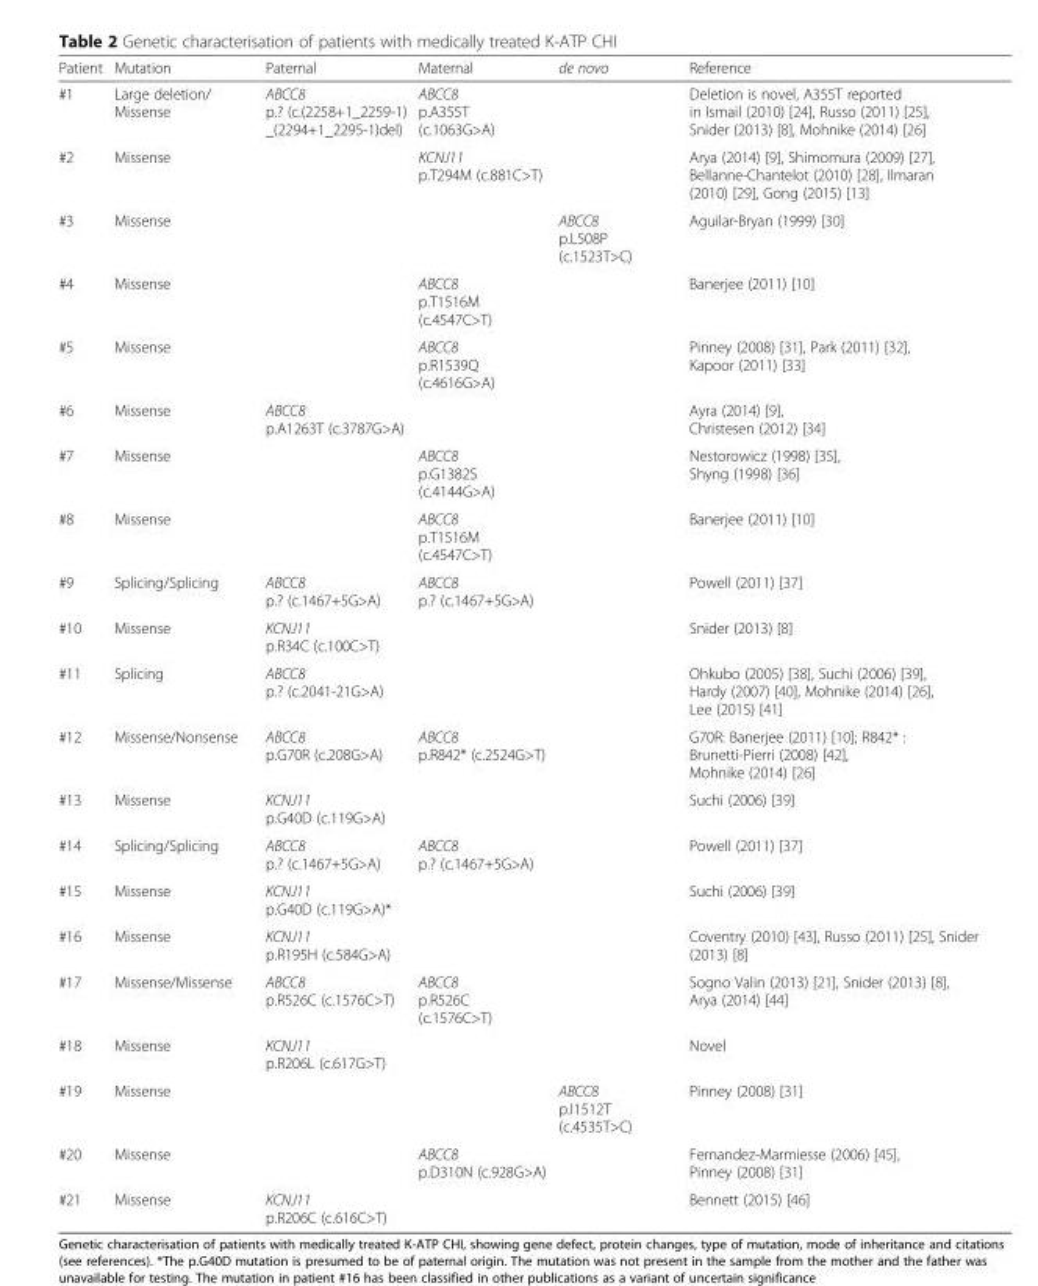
<table><thead><tr><td>Patient</td><td>Mutation</td><td>Paternal</td><td>Maternal</td><td>de novo</td><td>Reference</td></tr></thead><tbody><tr><td>#1</td><td>Large deletion/ Missense</td><td>ABCC8 p.? (c.(2258+1_2259-1) _(2294+1_2295-1)del)</td><td>ABCC8 p.A355T (c.1063G&gt;A)</td><td></td><td>Deletion is novel, A355T reported in Ismail (2010) [24], Russo (2011) [25], Snider (2013) [8], Mohnike (2014) [26]</td></tr><tr><td>#2</td><td>Missense</td><td></td><td>KCNJ11 p.T294M (c.881C&gt;T)</td><td></td><td>Arya (2014) [9], Shimomura (2009) [27], Bellanne-Chantelot (2010) [28], Ilmaran (2010) [29], Gong (2015) [13]</td></tr><tr><td>#3</td><td>Missense</td><td></td><td></td><td>ABCC8 p.L508P (c.1523T&gt;C)</td><td>Aguilar-Bryan (1999) [30]</td></tr><tr><td>#4</td><td>Missense</td><td></td><td>ABCC8 p.T1516M (c.4547C&gt;T)</td><td></td><td>Banerjee (2011) [10]</td></tr><tr><td>#5</td><td>Missense</td><td></td><td>ABCC8 p.R1539Q (c.4616G&gt;A)</td><td></td><td>Pinney (2008) [31], Park (2011) [32], Kapoor (2011) [33]</td></tr><tr><td>#6</td><td>Missense</td><td>ABCC8 p.A1263T (c.3787G&gt;A)</td><td></td><td></td><td>Ayra (2014) [9], Christesen (2012) [34]</td></tr><tr><td>#7</td><td>Missense</td><td></td><td>ABCC8 p.G1382S (c.4144G&gt;A)</td><td></td><td>Nestorowicz (1998) [35], Shyng (1998) [36]</td></tr><tr><td>#8</td><td>Missense</td><td></td><td>ABCC8 p.T1516M (c.4547C&gt;T)</td><td></td><td>Banerjee (2011) [10]</td></tr><tr><td>#9</td><td>Splicing/Splicing</td><td>ABCC8 p.? (c.1467+5G&gt;A)</td><td>ABCC8 p.? (c.1467+5G&gt;A)</td><td></td><td>Powell (2011) [37]</td></tr><tr><td>#10</td><td>Missense</td><td>KCNJ11 p.R34C (c.100C&gt;T)</td><td></td><td></td><td>Snider (2013) [8]</td></tr><tr><td>#11</td><td>Splicing</td><td>ABCC8 p.? (c.2041-21G&gt;A)</td><td></td><td></td><td>Ohkubo (2005) [38], Suchi (2006) [39], Hardy (2007) [40], Mohnike (2014) [26], Lee (2015) [41]</td></tr><tr><td>#12</td><td>Missense/Nonsense</td><td>ABCC8 p.G70R (c.208G&gt;A)</td><td>ABCC8 p.R842* (c.2524G&gt;T)</td><td></td><td>G70R: Banerjee (2011) [10]; R842* : Brunetti-Pierri (2008) [42], Mohnike (2014) [26]</td></tr><tr><td>#13</td><td>Missense</td><td>KCNJ11 p.G40D (c.119G&gt;A)</td><td></td><td></td><td>Suchi (2006) [39]</td></tr><tr><td>#14</td><td>Splicing/Splicing</td><td>ABCC8 p.? (c.1467+5G&gt;A)</td><td>ABCC8 p.? (c.1467+5G&gt;A)</td><td></td><td>Powell (2011) [37]</td></tr><tr><td>#15</td><td>Missense</td><td>KCNJ11 p.G40D (c.119G&gt;A)*</td><td></td><td></td><td>Suchi (2006) [39]</td></tr><tr><td>#16</td><td>Missense</td><td>KCNJ11 p.R195H (c.584G&gt;A)</td><td></td><td></td><td>Coventry (2010) [43], Russo (2011) [25], Snider (2013) [8]</td></tr><tr><td>#17</td><td>Missense/Missense</td><td>ABCC8 p.R526C (c.1576C&gt;T)</td><td>ABCC8 p.R526C (c.1576C&gt;T)</td><td></td><td>Sogno Valin (2013) [21], Snider (2013) [8], Arya (2014) [44]</td></tr><tr><td>#18</td><td>Missense</td><td>KCNJ11 p.R206L (c.617G&gt;T)</td><td></td><td></td><td>Novel</td></tr><tr><td>#19</td><td>Missense</td><td></td><td></td><td>ABCC8 p.I1512T (c.4535T&gt;C)</td><td>Pinney (2008) [31]</td></tr><tr><td>#20</td><td>Missense</td><td></td><td>ABCC8 p.D310N (c.928G&gt;A)</td><td></td><td>Fernandez-Marmiesse (2006) [45], Pinney (2008) [31]</td></tr><tr><td>#21</td><td>Missense</td><td>KCNJ11 p.R206C (c.616C&gt;T)</td><td></td><td></td><td>Bennett (2015) [46]</td></tr></tbody></table>